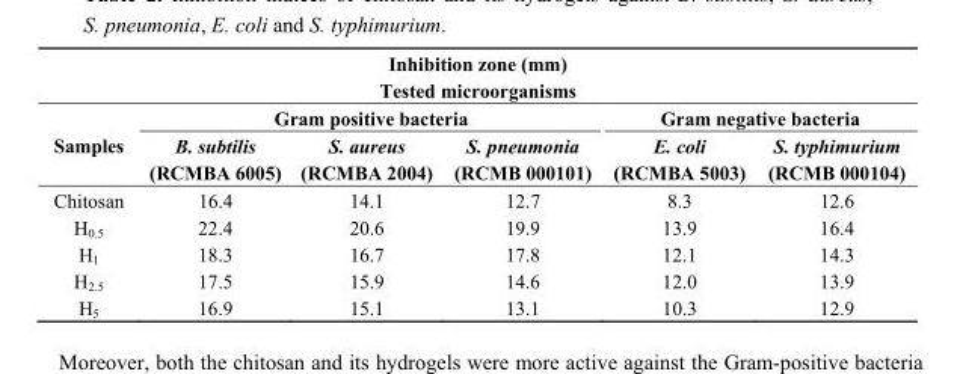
<table><thead><tr><td colspan="6">Inhibition zone (mm) Tested microorganisms</td></tr><tr><td rowspan="2">Samples</td><td colspan="3">Gram positive bacteria</td><td colspan="2">Gram negative bacteria</td></tr><tr><td>B. subtilis (RCMBA 6005)</td><td>S. aureus (RCMBA 2004)</td><td>S. pneumonia (RCMB 000101)</td><td>E. coli (RCMBA 5003)</td><td>S. typhimurium (RCMB 000104)</td></tr></thead><tbody><tr><td>Chitosan</td><td>16.4</td><td>14.1</td><td>12.7</td><td>8.3</td><td>12.6</td></tr><tr><td>H<sub>0.5</sub></td><td>22.4</td><td>20.6</td><td>19.9</td><td>13.9</td><td>16.4</td></tr><tr><td>H<sub>1</sub></td><td>18.3</td><td>16.7</td><td>17.8</td><td>12.1</td><td>14.3</td></tr><tr><td>H<sub>2.5</sub></td><td>17.5</td><td>15.9</td><td>14.6</td><td>12.0</td><td>13.9</td></tr><tr><td>H<sub>5</sub></td><td>16.9</td><td>15.1</td><td>13.1</td><td>10.3</td><td>12.9</td></tr></tbody></table>